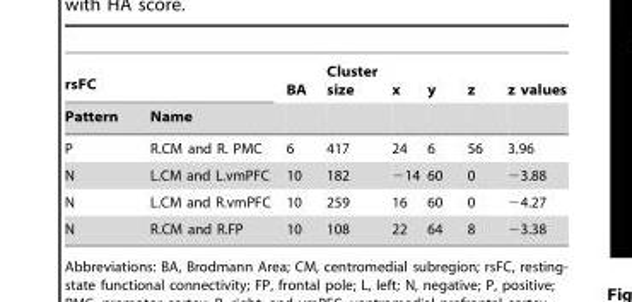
<table><thead><tr><td colspan="2">rsFC</td><td rowspan="2">BA</td><td rowspan="2">Cluster size</td><td rowspan="2">x</td><td rowspan="2">y</td><td rowspan="2">z</td><td rowspan="2">z values</td></tr><tr><td>Pattern</td><td>Name</td></tr></thead><tbody><tr><td>P</td><td>R.CM and R. PMC</td><td>6</td><td>417</td><td>24</td><td>6</td><td>56</td><td>3.96</td></tr><tr><td>N</td><td>L.CM and L.vmPFC</td><td>10</td><td>182</td><td>−14</td><td>60</td><td>0</td><td>−3.88</td></tr><tr><td>N</td><td>L.CM and R.vmPFC</td><td>10</td><td>259</td><td>16</td><td>60</td><td>0</td><td>−4.27</td></tr><tr><td>N</td><td>R.CM and R.FP</td><td>10</td><td>108</td><td>22</td><td>64</td><td>8</td><td>−3.38</td></tr></tbody></table>